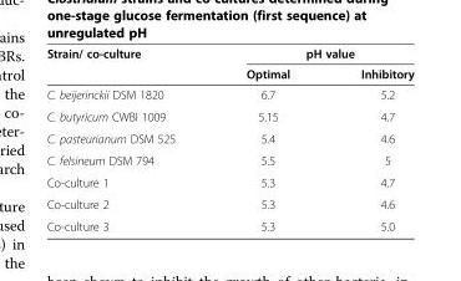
<table><thead><tr><td rowspan="2">Strain/ co-culture</td><td colspan="2">pH value</td></tr><tr><td>Optimal</td><td>Inhibitory</td></tr></thead><tbody><tr><td>C. beijerinckii DSM 1820</td><td>6.7</td><td>5.2</td></tr><tr><td>C. butyricum CWBI 1009</td><td>5.15</td><td>4.7</td></tr><tr><td>C. pasteurianum DSM 525</td><td>5.4</td><td>4.6</td></tr><tr><td>C. felsineum DSM 794</td><td>5.5</td><td>5</td></tr><tr><td>Co-culture 1</td><td>5.3</td><td>4.7</td></tr><tr><td>Co-culture 2</td><td>5.3</td><td>4.6</td></tr><tr><td>Co-culture 3</td><td>5.3</td><td>5.0</td></tr></tbody></table>